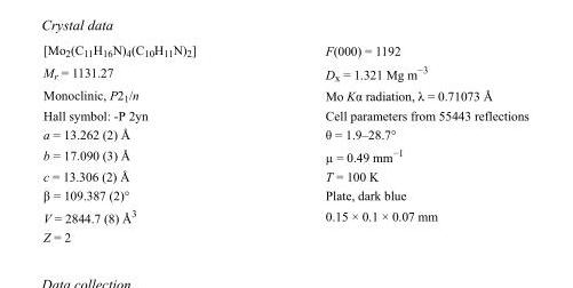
<table><tbody><tr><td>[Mo<sub>2</sub>(C<sub>11</sub>H<sub>16</sub>N)<sub>4</sub>(C<sub>10</sub>H<sub>11</sub>N)<sub>2</sub>]</td><td>F(000) = 1192</td></tr><tr><td>M<sub>r</sub> = 1131.27</td><td>D<sub>x</sub> = 1.321 Mg m<sup>−3</sup></td></tr><tr><td>Monoclinic, P2<sub>1</sub>/n</td><td>Mo Kα radiation, λ = 0.71073 Å</td></tr><tr><td>Hall symbol: -P 2yn</td><td>Cell parameters from 55443 reflections</td></tr><tr><td>a = 13.262 (2) Å</td><td>θ = 1.9–28.7°</td></tr><tr><td>b = 17.090 (3) Å</td><td>µ = 0.49 mm<sup>−1</sup></td></tr><tr><td>c = 13.306 (2) Å</td><td>T = 100 K</td></tr><tr><td>β = 109.387 (2)°</td><td>Plate, dark blue</td></tr><tr><td>V = 2844.7 (8) Å<sup>3</sup></td><td>0.15 × 0.1 × 0.07 mm</td></tr><tr><td>Z = 2</td><td></td></tr></tbody></table>